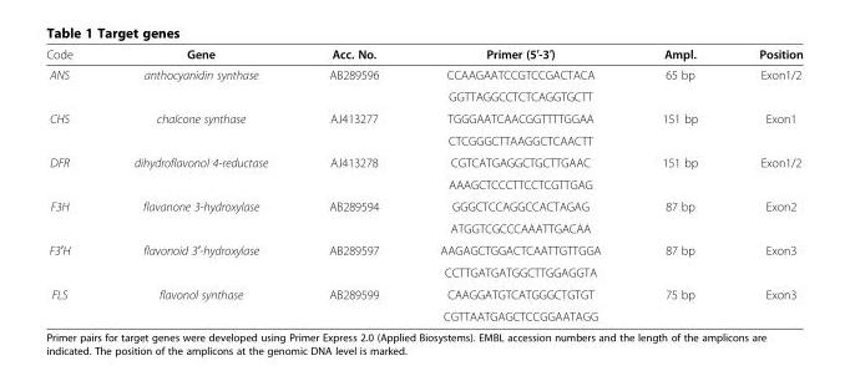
<table><thead><tr><td>Code</td><td>Gene</td><td>Acc. No.</td><td>Primer (5′-3′)</td><td>Ampl.</td><td>Position</td></tr></thead><tbody><tr><td rowspan="2">ANS</td><td rowspan="2">anthocyanidin synthase</td><td rowspan="2">AB289596</td><td>CCAAGAATCCGTCCGACTACA</td><td rowspan="2">65 bp</td><td rowspan="2">Exon1/2</td></tr><tr><td>GGTTAGGCCTCTCAGGTGCTT</td></tr><tr><td rowspan="2">CHS</td><td rowspan="2">chalcone synthase</td><td rowspan="2">AJ413277</td><td>TGGGAATCAACGGTTTTGGAA</td><td rowspan="2">151 bp</td><td rowspan="2">Exon1</td></tr><tr><td>CTCGGGCTTAAGGCTCAACTT</td></tr><tr><td rowspan="2">DFR</td><td rowspan="2">dihydroflavonol 4-reductase</td><td rowspan="2">AJ413278</td><td>CGTCATGAGGCTGCTTGAAC</td><td rowspan="2">151 bp</td><td rowspan="2">Exon1/2</td></tr><tr><td>AAAGCTCCCTTCCTCGTTGAG</td></tr><tr><td rowspan="2">F3H</td><td rowspan="2">flavanone 3-hydroxylase</td><td rowspan="2">AB289594</td><td>GGGCTCCAGGCCACTAGAG</td><td rowspan="2">87 bp</td><td rowspan="2">Exon2</td></tr><tr><td>ATGGTCGCCCAAATTGACAA</td></tr><tr><td rowspan="2">F3′H</td><td rowspan="2">flavonoid 3′-hydroxylase</td><td rowspan="2">AB289597</td><td>AAGAGCTGGACTCAATTGTTGGA</td><td rowspan="2">87 bp</td><td rowspan="2">Exon3</td></tr><tr><td>CCTTGATGATGGCTTGGAGGTA</td></tr><tr><td rowspan="2">FLS</td><td rowspan="2">flavonol synthase</td><td rowspan="2">AB289599</td><td>CAAGGATGTCATGGGCTGTGT</td><td rowspan="2">75 bp</td><td rowspan="2">Exon3</td></tr><tr><td>CGTTAATGAGCTCCGGAATAGG</td></tr></tbody></table>